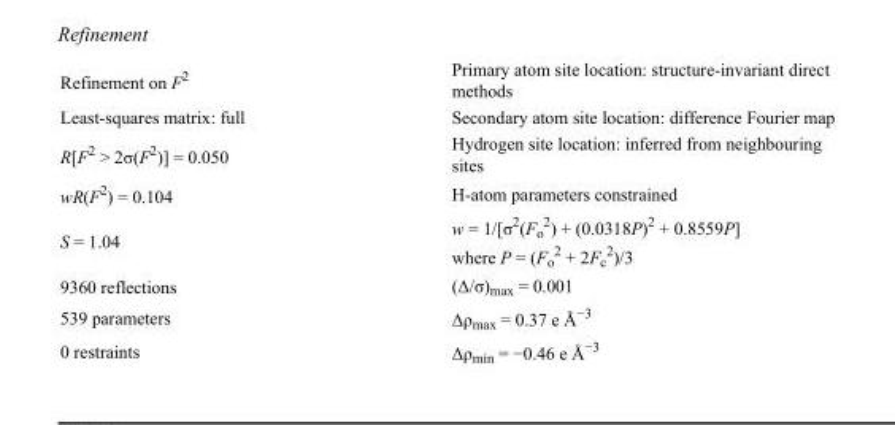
<table><tbody><tr><td>Refinement on F<sup>2</sup></td><td>Primary atom site location: structure-invariant direct methods</td></tr><tr><td>Least-squares matrix: full</td><td>Secondary atom site location: difference Fourier map</td></tr><tr><td>R[F<sup>2</sup> &gt; 2σ(F<sup>2</sup>)] = 0.050</td><td>Hydrogen site location: inferred from neighbouring sites</td></tr><tr><td>wR(F<sup>2</sup>) = 0.104</td><td>H-atom parameters constrained</td></tr><tr><td>S = 1.04</td><td>w = 1/[σ<sup>2</sup>(F<sub>o</sub> <sup>2</sup>) + (0.0318P)<sup>2</sup> + 0.8559P] where P = (F<sub>o</sub> <sup>2</sup> + 2F<sub>c</sub> <sup>2</sup>)/3</td></tr><tr><td>9360 reflections</td><td>(Δ/σ)<sub>max</sub> = 0.001</td></tr><tr><td>539 parameters</td><td>Δρ<sub>max</sub> = 0.37 e Å<sup>−3</sup></td></tr><tr><td>0 restraints</td><td>Δρ<sub>min</sub> = −0.46 e Å<sup>−3</sup></td></tr></tbody></table>